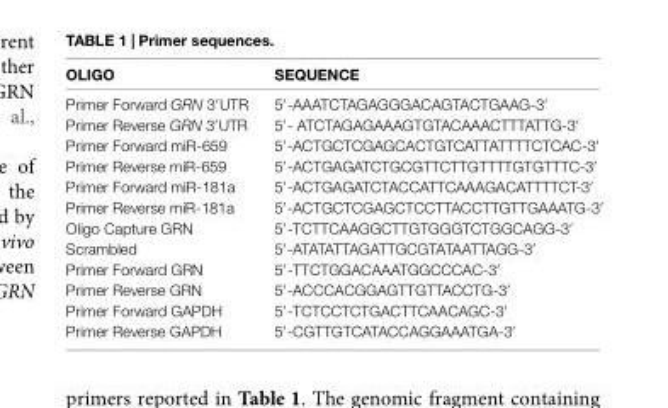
<table><thead><tr><td>OLIGO</td><td>SEQUENCE</td></tr></thead><tbody><tr><td>Primer Forward GRN 3′UTR</td><td>5′-AAATCTAGAGGGACAGTACTGAAG-3′</td></tr><tr><td>Primer Reverse GRN 3′UTR</td><td>5′- ATCTAGAGAAAGTGTACAAACTTTATTG-3′</td></tr><tr><td>Primer Forward miR-659</td><td>5′-ACTGCTCGAGCACTGTCATTATTTTCTCAC-3′</td></tr><tr><td>Primer Reverse miR-659</td><td>5′-ACTGAGATCTGCGTTCTTGTTTTGTGTTTC-3′</td></tr><tr><td>Primer Forward miR-181a</td><td>5′-ACTGAGATCTACCATTCAAAGACATTTTCT-3′</td></tr><tr><td>Primer Reverse miR-181a</td><td>5′-ACTGCTCGAGCTCCTTACCTTGTTGAAATG-3′</td></tr><tr><td>Oligo Capture GRN</td><td>5′-TCTTCAAGGCTTGTGGGTCTGGCAGG-3′</td></tr><tr><td>Scrambled</td><td>5′-ATATATTAGATTGCGTATAATTAGG-3′</td></tr><tr><td>Primer Forward GRN</td><td>5′-TTCTGGACAAATGGCCCAC-3′</td></tr><tr><td>Primer Reverse GRN</td><td>5′-ACCCACGGAGTTGTTACCTG-3′</td></tr><tr><td>Primer Forward GAPDH</td><td>5′-TCTCCTCTGACTTCAACAGC-3′</td></tr><tr><td>Primer Reverse GAPDH</td><td>5′-CGTTGTCATACCAGGAAATGA-3′</td></tr></tbody></table>